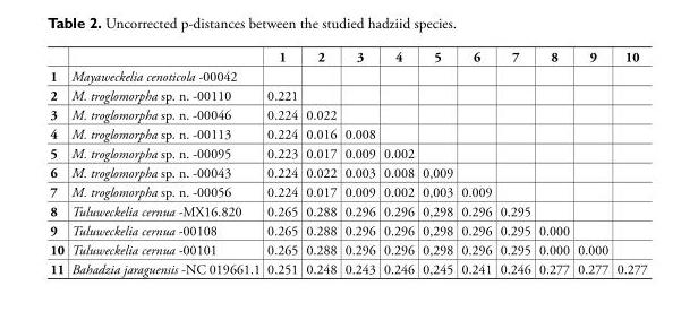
<table><thead><tr><td></td><td></td><td>1</td><td>2</td><td>3</td><td>4</td><td>5</td><td>6</td><td>7</td><td>8</td><td>9</td><td>10</td></tr></thead><tbody><tr><td>1</td><td>Mayaweckelia cenoticola -00042</td><td></td><td></td><td></td><td></td><td></td><td></td><td></td><td></td><td></td><td></td></tr><tr><td>2</td><td>M. troglomorpha sp. n. -00110</td><td>0.221</td><td></td><td></td><td></td><td></td><td></td><td></td><td></td><td></td><td></td></tr><tr><td>3</td><td>M. troglomorpha sp. n. -00046</td><td>0.224</td><td>0.022</td><td></td><td></td><td></td><td></td><td></td><td></td><td></td><td></td></tr><tr><td>4</td><td>M. troglomorpha sp. n. -00113</td><td>0.224</td><td>0.016</td><td>0.008</td><td></td><td></td><td></td><td></td><td></td><td></td><td></td></tr><tr><td>5</td><td>M. troglomorpha sp. n. -00095</td><td>0.223</td><td>0.017</td><td>0.009</td><td>0.002</td><td></td><td></td><td></td><td></td><td></td><td></td></tr><tr><td>6</td><td>M. troglomorpha sp. n. -00043</td><td>0.224</td><td>0.022</td><td>0.003</td><td>0.008</td><td>0,009</td><td></td><td></td><td></td><td></td><td></td></tr><tr><td>7</td><td>M. troglomorpha sp. n. -00056</td><td>0.224</td><td>0.017</td><td>0.009</td><td>0.002</td><td>0,003</td><td>0.009</td><td></td><td></td><td></td><td></td></tr><tr><td>8</td><td>Tuluweckelia cernua -MX16.820</td><td>0.265</td><td>0.288</td><td>0.296</td><td>0.296</td><td>0,298</td><td>0.296</td><td>0.295</td><td></td><td></td><td></td></tr><tr><td>9</td><td>Tuluweckelia cernua -00108</td><td>0.265</td><td>0.288</td><td>0.296</td><td>0.296</td><td>0,298</td><td>0.296</td><td>0.295</td><td>0.000</td><td></td><td></td></tr><tr><td>10</td><td>Tuluweckelia cernua -00101</td><td>0.265</td><td>0.288</td><td>0.296</td><td>0.296</td><td>0,298</td><td>0.296</td><td>0.295</td><td>0.000</td><td>0.000</td><td></td></tr><tr><td>11</td><td>Bahadzia jaraguensis -NC 019661.1</td><td>0.251</td><td>0.248</td><td>0.243</td><td>0.246</td><td>0,245</td><td>0.241</td><td>0.246</td><td>0.277</td><td>0.277</td><td>0.277</td></tr></tbody></table>